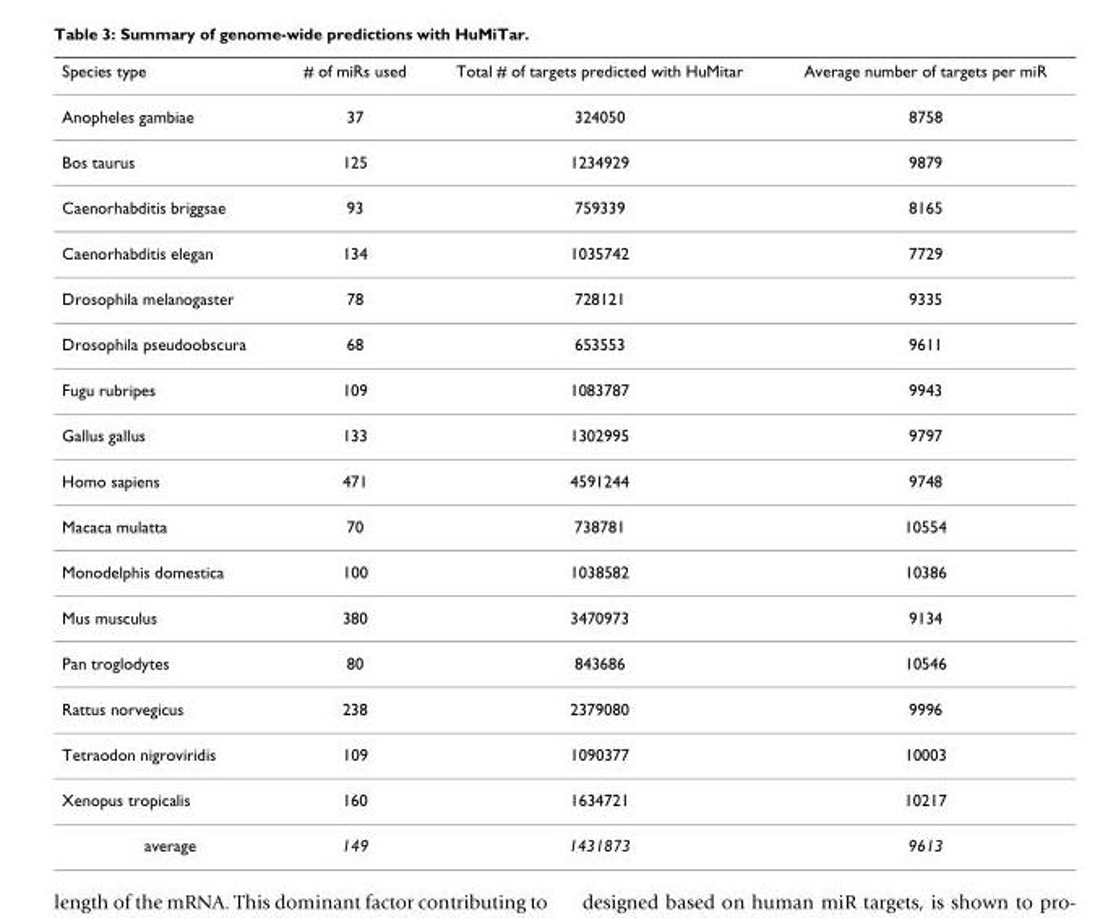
<table><thead><tr><td>Species type</td><td># of miRs used</td><td>Total # of targets predicted with HuMitar</td><td>Average number of targets per miR</td></tr></thead><tbody><tr><td>Anopheles gambiae</td><td>37</td><td>324050</td><td>8758</td></tr><tr><td>Bos taurus</td><td>125</td><td>1234929</td><td>9879</td></tr><tr><td>Caenorhabditis briggsae</td><td>93</td><td>759339</td><td>8165</td></tr><tr><td>Caenorhabditis elegan</td><td>134</td><td>1035742</td><td>7729</td></tr><tr><td>Drosophila melanogaster</td><td>78</td><td>728121</td><td>9335</td></tr><tr><td>Drosophila pseudoobscura</td><td>68</td><td>653553</td><td>9611</td></tr><tr><td>Fugu rubripes</td><td>109</td><td>1083787</td><td>9943</td></tr><tr><td>Gallus gallus</td><td>133</td><td>1302995</td><td>9797</td></tr><tr><td>Homo sapiens</td><td>471</td><td>4591244</td><td>9748</td></tr><tr><td>Macaca mulatta</td><td>70</td><td>738781</td><td>10554</td></tr><tr><td>Monodelphis domestica</td><td>100</td><td>1038582</td><td>10386</td></tr><tr><td>Mus musculus</td><td>380</td><td>3470973</td><td>9134</td></tr><tr><td>Pan troglodytes</td><td>80</td><td>843686</td><td>10546</td></tr><tr><td>Rattus norvegicus</td><td>238</td><td>2379080</td><td>9996</td></tr><tr><td>Tetraodon nigroviridis</td><td>109</td><td>1090377</td><td>10003</td></tr><tr><td>Xenopus tropicalis</td><td>160</td><td>1634721</td><td>10217</td></tr><tr><td>average</td><td>149</td><td>1431873</td><td>9613</td></tr></tbody></table>